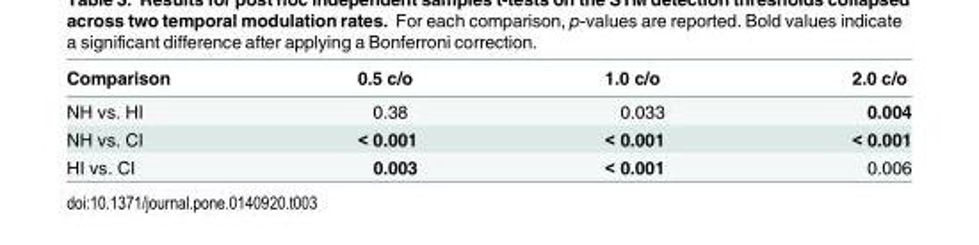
<table><thead><tr><td>Comparison</td><td>0.5 c/o</td><td>1.0 c/o</td><td>2.0 c/o</td></tr></thead><tbody><tr><td>NH vs. HI</td><td>0.38</td><td>0.033</td><td>0.004</td></tr><tr><td>NH vs. CI</td><td>&lt; 0.001</td><td>&lt; 0.001</td><td>&lt; 0.001</td></tr><tr><td>HI vs. CI</td><td>0.003</td><td>&lt; 0.001</td><td>0.006</td></tr></tbody></table>